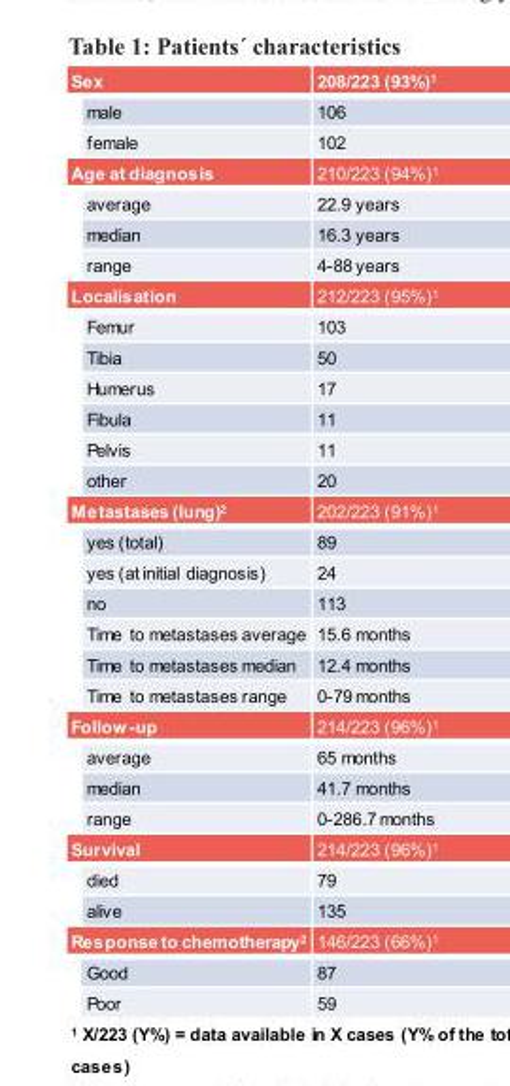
<table><tbody><tr><td>Sex</td><td>208/223 (93%)<sup>1</sup></td></tr><tr><td>male</td><td>106</td></tr><tr><td>female</td><td>102</td></tr><tr><td>Age at diagnosis</td><td>210/223 (94%)<sup>1</sup></td></tr><tr><td>average</td><td>22.9 years</td></tr><tr><td>median</td><td>16.3 years</td></tr><tr><td>range</td><td>4-88 years</td></tr><tr><td>Localisation</td><td>212/223 (95%)<sup>1</sup></td></tr><tr><td>Femur</td><td>103</td></tr><tr><td>Tibia</td><td>50</td></tr><tr><td>Humerus</td><td>17</td></tr><tr><td>Fibula</td><td>11</td></tr><tr><td>Pelvis</td><td>11</td></tr><tr><td>other</td><td>20</td></tr><tr><td>Metastases (lung)<sup>2</sup></td><td>202/223 (91%)<sup>1</sup></td></tr><tr><td>yes (total)</td><td>89</td></tr><tr><td>yes (at initial diagnosis)</td><td>24</td></tr><tr><td>no</td><td>113</td></tr><tr><td>Time to metastases average</td><td>15.6 months</td></tr><tr><td>Time to metastases median</td><td>12.4 months</td></tr><tr><td>Time to metastases range</td><td>0-79 months</td></tr><tr><td>Follow-up</td><td>214/223 (96%)<sup>1</sup></td></tr><tr><td>average</td><td>65 months</td></tr><tr><td>median</td><td>41.7 months</td></tr><tr><td>range</td><td>0-286.7 months</td></tr><tr><td>Survival</td><td>214/223 (96%)<sup>1</sup></td></tr><tr><td>died</td><td>79</td></tr><tr><td>alive</td><td>135</td></tr><tr><td>Response to chemotherapy<sup>2</sup></td><td>146/223 (66%)<sup>1</sup></td></tr><tr><td>Good</td><td>87</td></tr><tr><td>Poor</td><td>59</td></tr></tbody></table>